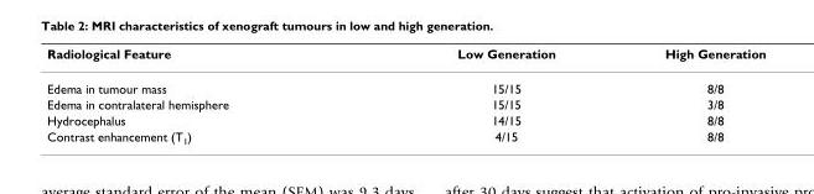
<table><thead><tr><td>Radiological Feature</td><td>Low Generation</td><td>High Generation</td></tr></thead><tbody><tr><td>Edema in tumour mass</td><td>15/15</td><td>8/8</td></tr><tr><td>Edema in contralateral hemisphere</td><td>15/15</td><td>3/8</td></tr><tr><td>Hydrocephalus</td><td>14/15</td><td>8/8</td></tr><tr><td>Contrast enhancement (T<sub>1</sub>)</td><td>4/15</td><td>8/8</td></tr></tbody></table>